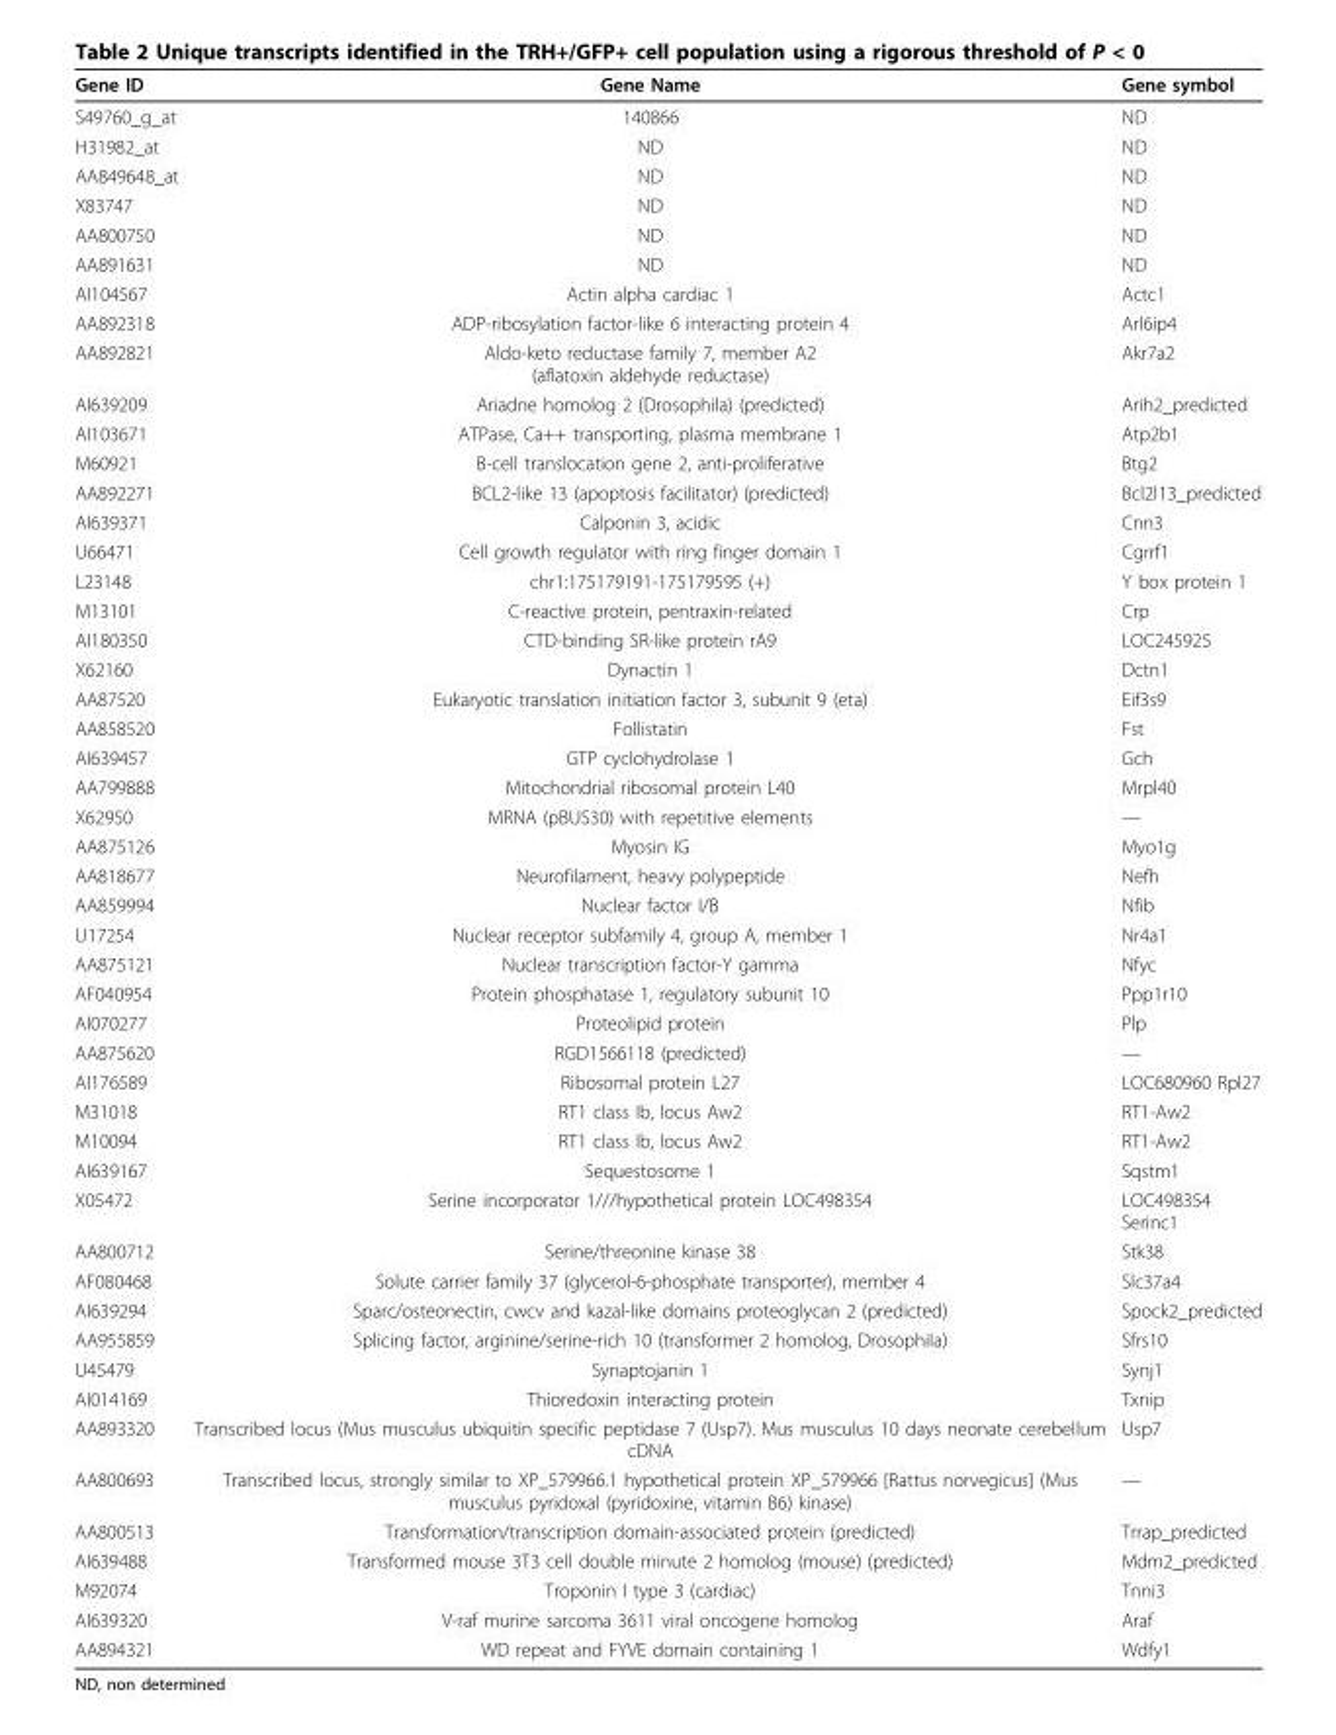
<table><thead><tr><td>Gene ID</td><td>Gene Name</td><td>Gene symbol</td></tr></thead><tbody><tr><td>S49760_g_at</td><td>140866</td><td>ND</td></tr><tr><td>H31982_at</td><td>ND</td><td>ND</td></tr><tr><td>AA849648_at</td><td>ND</td><td>ND</td></tr><tr><td>X83747</td><td>ND</td><td>ND</td></tr><tr><td>AA800750</td><td>ND</td><td>ND</td></tr><tr><td>AA891631</td><td>ND</td><td>ND</td></tr><tr><td>AI104567</td><td>Actin alpha cardiac 1</td><td>Actc1</td></tr><tr><td>AA892318</td><td>ADP-ribosylation factor-like 6 interacting protein 4</td><td>Arl6ip4</td></tr><tr><td>AA892821</td><td>Aldo-keto reductase family 7, member A2 (aflatoxin aldehyde reductase)</td><td>Akr7a2</td></tr><tr><td>AI639209</td><td>Ariadne homolog 2 (Drosophila) (predicted)</td><td>Arih2_predicted</td></tr><tr><td>AI103671</td><td>ATPase, Ca++ transporting, plasma membrane 1</td><td>Atp2b1</td></tr><tr><td>M60921</td><td>B-cell translocation gene 2, anti-proliferative</td><td>Btg2</td></tr><tr><td>AA892271</td><td>BCL2-like 13 (apoptosis facilitator) (predicted)</td><td>Bcl2l13_predicted</td></tr><tr><td>AI639371</td><td>Calponin 3, acidic</td><td>Cnn3</td></tr><tr><td>U66471</td><td>Cell growth regulator with ring finger domain 1</td><td>Cgrrf1</td></tr><tr><td>L23148</td><td>chr1:175179191-175179595 (+)</td><td>Y box protein 1</td></tr><tr><td>M13101</td><td>C-reactive protein, pentraxin-related</td><td>Crp</td></tr><tr><td>AI180350</td><td>CTD-binding SR-like protein rA9</td><td>LOC245925</td></tr><tr><td>X62160</td><td>Dynactin 1</td><td>Dctn1</td></tr><tr><td>AA87520</td><td>Eukaryotic translation initiation factor 3, subunit 9 (eta)</td><td>Eif3s9</td></tr><tr><td>AA858520</td><td>Follistatin</td><td>Fst</td></tr><tr><td>AI639457</td><td>GTP cyclohydrolase 1</td><td>Gch</td></tr><tr><td>AA799888</td><td>Mitochondrial ribosomal protein L40</td><td>Mrpl40</td></tr><tr><td>X62950</td><td>MRNA (pBUS30) with repetitive elements</td><td>—</td></tr><tr><td>AA875126</td><td>Myosin IG</td><td>Myo1g</td></tr><tr><td>AA818677</td><td>Neurofilament, heavy polypeptide</td><td>Nefh</td></tr><tr><td>AA859994</td><td>Nuclear factor I/B</td><td>Nfib</td></tr><tr><td>U17254</td><td>Nuclear receptor subfamily 4, group A, member 1</td><td>Nr4a1</td></tr><tr><td>AA875121</td><td>Nuclear transcription factor-Y gamma</td><td>Nfyc</td></tr><tr><td>AF040954</td><td>Protein phosphatase 1, regulatory subunit 10</td><td>Ppp1r10</td></tr><tr><td>AI070277</td><td>Proteolipid protein</td><td>Plp</td></tr><tr><td>AA875620</td><td>RGD1566118 (predicted)</td><td>—</td></tr><tr><td>AI176589</td><td>Ribosomal protein L27</td><td>LOC680960 Rpl27</td></tr><tr><td>M31018</td><td>RT1 class Ib, locus Aw2</td><td>RT1-Aw2</td></tr><tr><td>M10094</td><td>RT1 class Ib, locus Aw2</td><td>RT1-Aw2</td></tr><tr><td>AI639167</td><td>Sequestosome 1</td><td>Sqstm1</td></tr><tr><td>X05472</td><td>Serine incorporator 1///hypothetical protein LOC498354</td><td>LOC498354 Serinc1</td></tr><tr><td>AA800712</td><td>Serine/threonine kinase 38</td><td>Stk38</td></tr><tr><td>AF080468</td><td>Solute carrier family 37 (glycerol-6-phosphate transporter), member 4</td><td>Slc37a4</td></tr><tr><td>AI639294</td><td>Sparc/osteonectin, cwcv and kazal-like domains proteoglycan 2 (predicted)</td><td>Spock2_predicted</td></tr><tr><td>AA955859</td><td>Splicing factor, arginine/serine-rich 10 (transformer 2 homolog, Drosophila)</td><td>Sfrs10</td></tr><tr><td>U45479</td><td>Synaptojanin 1</td><td>Synj1</td></tr><tr><td>AI014169</td><td>Thioredoxin interacting protein</td><td>Txnip</td></tr><tr><td>AA893320</td><td>Transcribed locus (Mus musculus ubiquitin specific peptidase 7 (Usp7). Mus musculus 10 days neonate cerebellum cDNA</td><td>Usp7</td></tr><tr><td>AA800693</td><td>Transcribed locus, strongly similar to XP_579966.1 hypothetical protein XP_579966 [Rattus norvegicus] (Mus musculus pyridoxal (pyridoxine, vitamin B6) kinase)</td><td>—</td></tr><tr><td>AA800513</td><td>Transformation/transcription domain-associated protein (predicted)</td><td>Trrap_predicted</td></tr><tr><td>AI639488</td><td>Transformed mouse 3T3 cell double minute 2 homolog (mouse) (predicted)</td><td>Mdm2_predicted</td></tr><tr><td>M92074</td><td>Troponin I type 3 (cardiac)</td><td>Tnni3</td></tr><tr><td>AI639320</td><td>V-raf murine sarcoma 3611 viral oncogene homolog</td><td>Araf</td></tr><tr><td>AA894321</td><td>WD repeat and FYVE domain containing 1</td><td>Wdfy1</td></tr></tbody></table>